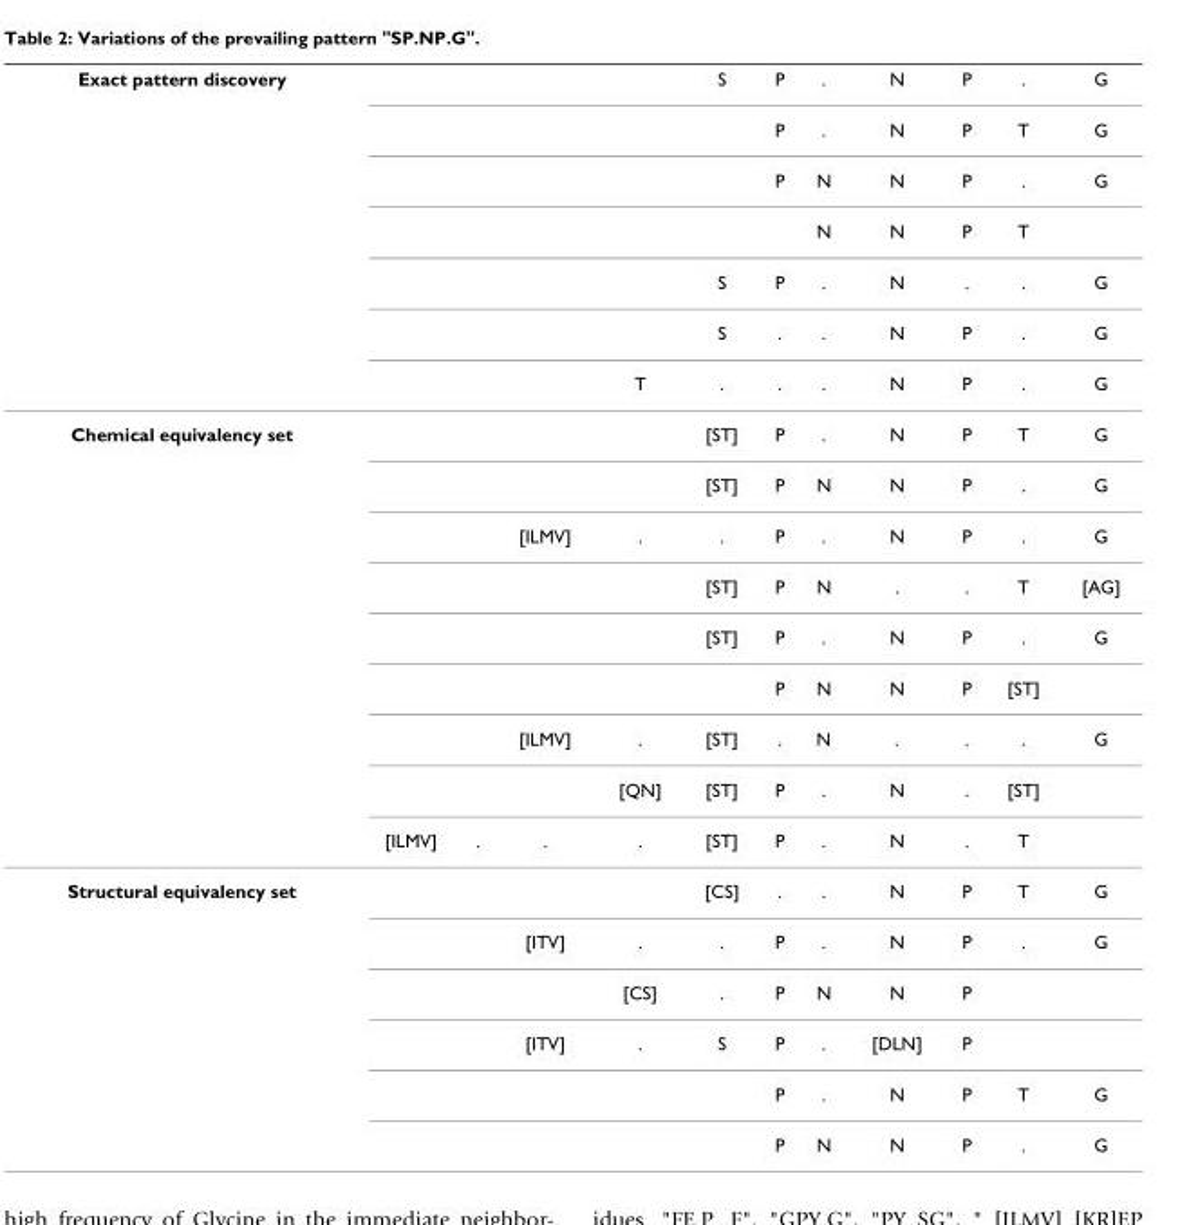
<table><thead><tr><td rowspan="7">Exact pattern discovery</td><td rowspan="7"></td><td rowspan="7"></td><td rowspan="7"></td><td rowspan="7">T</td><td rowspan="7">S S S .</td><td rowspan="7">P P P P . .</td><td rowspan="7">. . N N . . .</td><td rowspan="7">N N N N N N N</td><td rowspan="7">P P P P . P P</td><td rowspan="7">. T . T . . .</td><td rowspan="7">G G G G G G</td></tr><tr></tr><tr></tr><tr></tr><tr></tr><tr></tr><tr></tr></thead><tbody><tr><td rowspan="9">Chemical equivalency set</td><td></td><td></td><td></td><td></td><td>[ST]</td><td>P</td><td>.</td><td>N</td><td>P</td><td>T</td><td>G</td></tr><tr><td></td><td></td><td></td><td></td><td>[ST]</td><td>P</td><td>N</td><td>N</td><td>P</td><td>.</td><td>G</td></tr><tr><td></td><td></td><td>[ILMV]</td><td>.</td><td>.</td><td>P</td><td>.</td><td>N</td><td>P</td><td>.</td><td>G</td></tr><tr><td></td><td></td><td></td><td></td><td>[ST]</td><td>P</td><td>N</td><td>.</td><td>.</td><td>T</td><td>[AG]</td></tr><tr><td></td><td></td><td></td><td></td><td>[ST]</td><td>P</td><td>.</td><td>N</td><td>P</td><td>.</td><td>G</td></tr><tr><td></td><td></td><td></td><td></td><td></td><td>P</td><td>N</td><td>N</td><td>P</td><td>[ST]</td><td></td></tr><tr><td></td><td></td><td>[ILMV]</td><td>.</td><td>[ST]</td><td>.</td><td>N</td><td>.</td><td>.</td><td>.</td><td>G</td></tr><tr><td></td><td></td><td></td><td>[QN]</td><td>[ST]</td><td>P</td><td>.</td><td>N</td><td>.</td><td>[ST]</td><td></td></tr><tr><td>[ILMV]</td><td>.</td><td>.</td><td>.</td><td>[ST]</td><td>P</td><td>.</td><td>N</td><td>.</td><td>T</td><td></td></tr><tr><td rowspan="6">Structural equivalency set</td><td></td><td></td><td></td><td></td><td>[CS]</td><td>.</td><td>.</td><td>N</td><td>P</td><td>T</td><td>G</td></tr><tr><td></td><td></td><td>[ITV]</td><td>.</td><td>.</td><td>P</td><td>.</td><td>N</td><td>P</td><td>.</td><td>G</td></tr><tr><td></td><td></td><td></td><td>[CS]</td><td>.</td><td>P</td><td>N</td><td>N</td><td>P</td><td></td><td></td></tr><tr><td></td><td></td><td>[ITV]</td><td>.</td><td>S</td><td>P</td><td>.</td><td>[DLN]</td><td>P</td><td></td><td></td></tr><tr><td></td><td></td><td></td><td></td><td></td><td>P</td><td>.</td><td>N</td><td>P</td><td>T</td><td>G</td></tr><tr><td></td><td></td><td></td><td></td><td></td><td>P</td><td>N</td><td>N</td><td>P</td><td>.</td><td>G</td></tr></tbody></table>